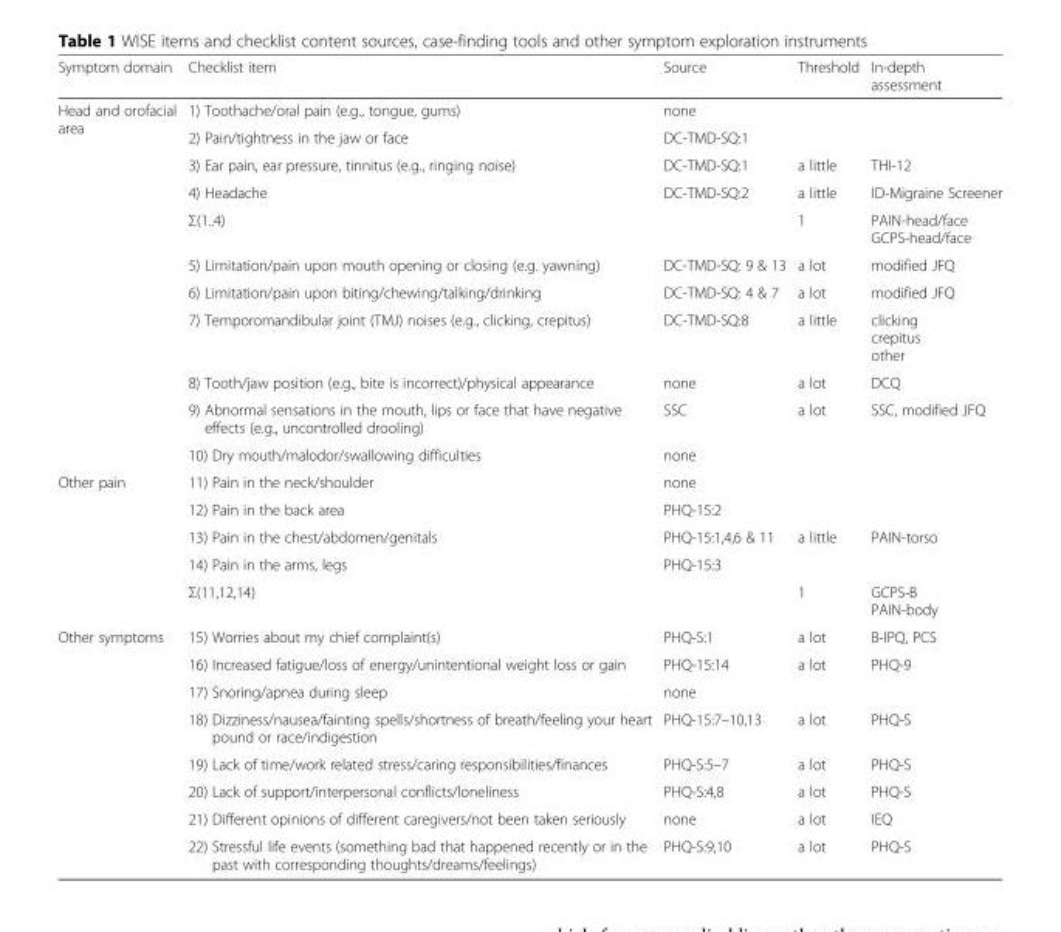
<table><thead><tr><td>Symptom domain</td><td>Checklist item</td><td>Source</td><td>Threshold</td><td>In-depth assessment</td></tr></thead><tbody><tr><td rowspan="11">Head and orofacial area</td><td>1) Toothache/oral pain (e.g., tongue, gums)</td><td>none</td><td></td><td></td></tr><tr><td>2) Pain/tightness in the jaw or face</td><td>DC-TMD-SQ:1</td><td></td><td></td></tr><tr><td>3) Ear pain, ear pressure, tinnitus (e.g., ringing noise)</td><td>DC-TMD-SQ:1</td><td>a little</td><td>THI-12</td></tr><tr><td>4) Headache</td><td>DC-TMD-SQ:2</td><td>a little</td><td>ID-Migraine Screener</td></tr><tr><td>Σ(1..4)</td><td></td><td>1</td><td>PAIN-head/face GCPS-head/face</td></tr><tr><td>5) Limitation/pain upon mouth opening or closing (e.g. yawning)</td><td>DC-TMD-SQ: 9 &amp; 13</td><td>a lot</td><td>modified JFQ</td></tr><tr><td>6) Limitation/pain upon biting/chewing/talking/drinking</td><td>DC-TMD-SQ: 4 &amp; 7</td><td>a lot</td><td>modified JFQ</td></tr><tr><td>7) Temporomandibular joint (TMJ) noises (e.g., clicking, crepitus)</td><td>DC-TMD-SQ:8</td><td>a little</td><td>clicking crepitus other</td></tr><tr><td>8) Tooth/jaw position (e.g., bite is incorrect)/physical appearance</td><td>none</td><td>a lot</td><td>DCQ</td></tr><tr><td>9) Abnormal sensations in the mouth, lips or face that have negative effects (e.g., uncontrolled drooling)</td><td>SSC</td><td>a lot</td><td>SSC, modified JFQ</td></tr><tr><td>10) Dry mouth/malodor/swallowing difficulties</td><td>none</td><td></td><td></td></tr><tr><td rowspan="5">Other pain</td><td>11) Pain in the neck/shoulder</td><td>none</td><td></td><td></td></tr><tr><td>12) Pain in the back area</td><td>PHQ-15:2</td><td></td><td></td></tr><tr><td>13) Pain in the chest/abdomen/genitals</td><td>PHQ-15:1,4,6 &amp; 11</td><td>a little</td><td>PAIN-torso</td></tr><tr><td>14) Pain in the arms, legs</td><td>PHQ-15:3</td><td></td><td></td></tr><tr><td>Σ(11,12,14)</td><td></td><td>1</td><td>GCPS-B PAIN-body</td></tr><tr><td rowspan="8">Other symptoms</td><td>15) Worries about my chief complaint(s)</td><td>PHQ-S:1</td><td>a lot</td><td>B-IPQ, PCS</td></tr><tr><td>16) Increased fatigue/loss of energy/unintentional weight loss or gain</td><td>PHQ-15:14</td><td>a lot</td><td>PHQ-9</td></tr><tr><td>17) Snoring/apnea during sleep</td><td>none</td><td></td><td></td></tr><tr><td>18) Dizziness/nausea/fainting spells/shortness of breath/feeling your heart pound or race/indigestion</td><td>PHQ-15:7–10,13</td><td>a lot</td><td>PHQ-S</td></tr><tr><td>19) Lack of time/work related stress/caring responsibilities/finances</td><td>PHQ-S:5–7</td><td>a lot</td><td>PHQ-S</td></tr><tr><td>20) Lack of support/interpersonal conflicts/loneliness</td><td>PHQ-S:4,8</td><td>a lot</td><td>PHQ-S</td></tr><tr><td>21) Different opinions of different caregivers/not been taken seriously</td><td>none</td><td>a lot</td><td>IEQ</td></tr><tr><td>22) Stressful life events (something bad that happened recently or in the past with corresponding thoughts/dreams/feelings)</td><td>PHQ-S:9,10</td><td>a lot</td><td>PHQ-S</td></tr></tbody></table>